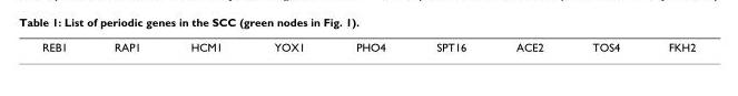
<table><tbody><tr><td>REB1</td><td>RAP1</td><td>HCM1</td><td>YOX1</td><td>PHO4</td><td>SPT16</td><td>ACE2</td><td>TOS4</td><td>FKH2</td></tr></tbody></table>